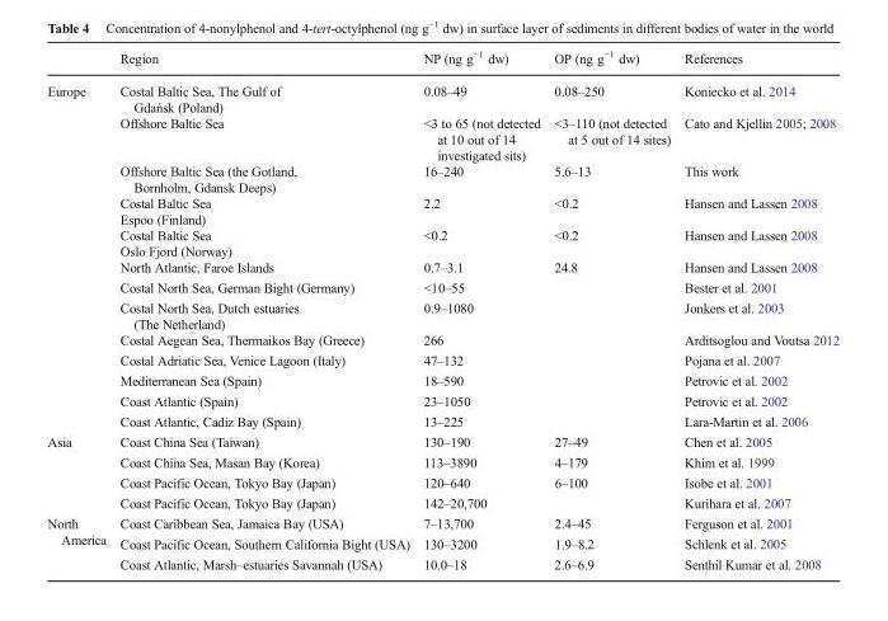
<table><thead><tr><td></td><td>Region</td><td>NP (ng g<sup>−1</sup> dw)</td><td>OP (ng g<sup>−1</sup> dw)</td><td>References</td></tr></thead><tbody><tr><td rowspan="13">Europe</td><td>Costal Baltic Sea, The Gulf of Gdańsk (Poland)</td><td>0.08–49</td><td>0.08–250</td><td>Koniecko et al. 2014</td></tr><tr><td>Offshore Baltic Sea</td><td>&lt;3 to 65 (not detected at 10 out of 14 investigated sits)</td><td>&lt;3–110 (not detected at 5 out of 14 sites)</td><td>Cato and Kjellin 2005; 2008</td></tr><tr><td>Offshore Baltic Sea (the Gotland, Bornholm, Gdansk Deeps)</td><td>16–240</td><td>5.6–13</td><td>This work</td></tr><tr><td>Costal Baltic Sea Espoo (Finland)</td><td>2.2</td><td>&lt;0.2</td><td>Hansen and Lassen 2008</td></tr><tr><td>Costal Baltic Sea Oslo Fjord (Norway)</td><td>&lt;0.2</td><td>&lt;0.2</td><td>Hansen and Lassen 2008</td></tr><tr><td>North Atlantic, Faroe Islands</td><td>0.7–3.1</td><td>24.8</td><td>Hansen and Lassen 2008</td></tr><tr><td>Costal North Sea, German Bight (Germany)</td><td>&lt;10–55</td><td></td><td>Bester et al. 2001</td></tr><tr><td>Costal North Sea, Dutch estuaries (The Netherland)</td><td>0.9–1080</td><td></td><td>Jonkers et al. 2003</td></tr><tr><td>Costal Aegean Sea, Thermaikos Bay (Greece)</td><td>266</td><td></td><td>Arditsoglou and Voutsa 2012</td></tr><tr><td>Costal Adriatic Sea, Venice Lagoon (Italy)</td><td>47–132</td><td></td><td>Pojana et al. 2007</td></tr><tr><td>Mediterranean Sea (Spain)</td><td>18–590</td><td></td><td>Petrovic et al. 2002</td></tr><tr><td>Coast Atlantic (Spain)</td><td>23–1050</td><td></td><td>Petrovic et al. 2002</td></tr><tr><td>Coast Atlantic, Cadiz Bay (Spain)</td><td>13–225</td><td></td><td>Lara-Martin et al. 2006</td></tr><tr><td rowspan="4">Asia</td><td>Coast China Sea (Taiwan)</td><td>130–190</td><td>27–49</td><td>Chen et al. 2005</td></tr><tr><td>Coast China Sea, Masan Bay (Korea)</td><td>113–3890</td><td>4–179</td><td>Khim et al. 1999</td></tr><tr><td>Coast Pacific Ocean, Tokyo Bay (Japan)</td><td>120–640</td><td>6–100</td><td>Isobe et al. 2001</td></tr><tr><td>Coast Pacific Ocean, Tokyo Bay (Japan)</td><td>142–20,700</td><td></td><td>Kurihara et al. 2007</td></tr><tr><td rowspan="3">North America</td><td>Coast Caribbean Sea, Jamaica Bay (USA)</td><td>7–13,700</td><td>2.4–45</td><td>Ferguson et al. 2001</td></tr><tr><td>Coast Pacific Ocean, Southern California Bight (USA)</td><td>130–3200</td><td>1.9–8.2</td><td>Schlenk et al. 2005</td></tr><tr><td>Coast Atlantic, Marsh–estuaries Savannah (USA)</td><td>10.0–18</td><td>2.6–6.9</td><td>Senthil Kumar et al. 2008</td></tr></tbody></table>